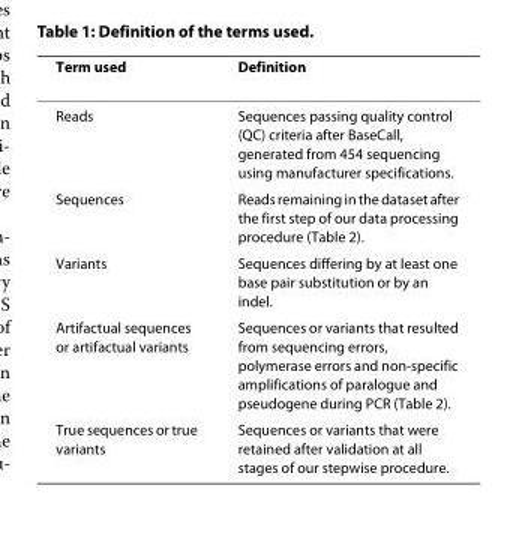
<table><thead><tr><td>Term used</td><td>Definition</td></tr></thead><tbody><tr><td>Reads</td><td>Sequences passing quality control (QC) criteria after BaseCall, generated from 454 sequencing using manufacturer specifications.</td></tr><tr><td>Sequences</td><td>Reads remaining in the dataset after the first step of our data processing procedure (Table 2).</td></tr><tr><td>Variants</td><td>Sequences differing by at least one base pair substitution or by an indel.</td></tr><tr><td>Artifactual sequences or artifactual variants</td><td>Sequences or variants that resulted from sequencing errors, polymerase errors and non-specific amplifications of paralogue and pseudogene during PCR (Table 2).</td></tr><tr><td>True sequences or true variants</td><td>Sequences or variants that were retained after validation at all stages of our stepwise procedure.</td></tr></tbody></table>